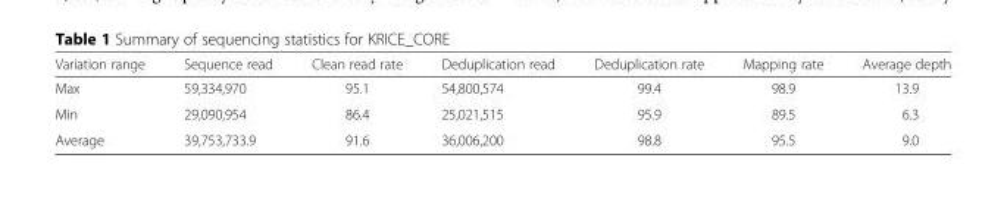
<table><thead><tr><td>Variation range</td><td>Sequence read</td><td>Clean read rate</td><td>Deduplication read</td><td>Deduplication rate</td><td>Mapping rate</td><td>Average depth</td></tr></thead><tbody><tr><td>Max</td><td>59,334,970</td><td>95.1</td><td>54,800,574</td><td>99.4</td><td>98.9</td><td>13.9</td></tr><tr><td>Min</td><td>29,090,954</td><td>86.4</td><td>25,021,515</td><td>95.9</td><td>89.5</td><td>6.3</td></tr><tr><td>Average</td><td>39,753,733.9</td><td>91.6</td><td>36,006,200</td><td>98.8</td><td>95.5</td><td>9.0</td></tr></tbody></table>